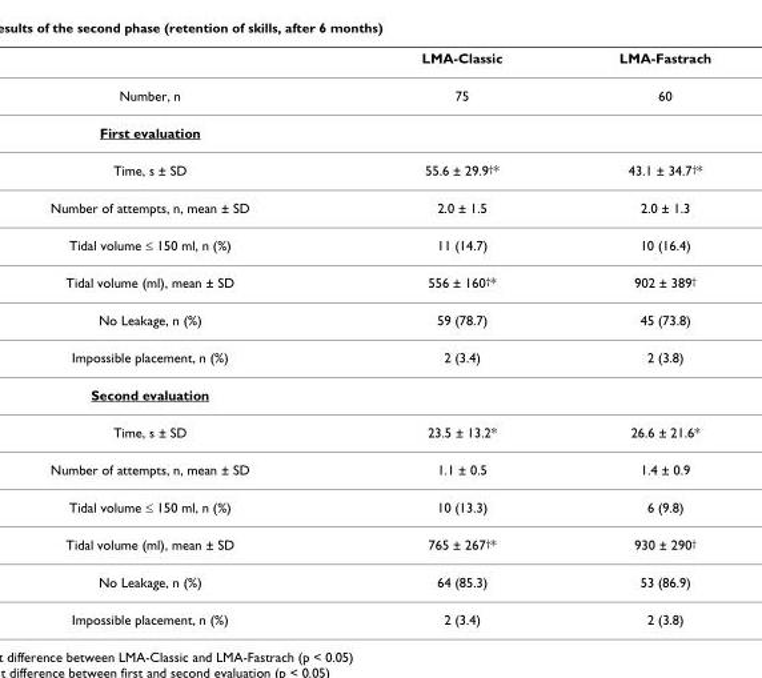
<table><thead><tr><td></td><td>LMA-Classic</td><td>LMA-Fastrach</td></tr></thead><tbody><tr><td>Number, n</td><td>75</td><td>60</td></tr><tr><td colspan="3">First evaluation</td></tr><tr><td>Time, s ± SD</td><td>55.6 ± 29.9<sup>†</sup>*</td><td>43.1 ± 34.7<sup>†</sup>*</td></tr><tr><td>Number of attempts, n, mean ± SD</td><td>2.0 ± 1.5</td><td>2.0 ± 1.3</td></tr><tr><td>Tidal volume ≤ 150 ml, n (%)</td><td>11 (14.7)</td><td>10 (16.4)</td></tr><tr><td>Tidal volume (ml), mean ± SD</td><td>556 ± 160<sup>†</sup>*</td><td>902 ± 389<sup>†</sup></td></tr><tr><td>No Leakage, n (%)</td><td>59 (78.7)</td><td>45 (73.8)</td></tr><tr><td>Impossible placement, n (%)</td><td>2 (3.4)</td><td>2 (3.8)</td></tr><tr><td colspan="3">Second evaluation</td></tr><tr><td>Time, s ± SD</td><td>23.5 ± 13.2*</td><td>26.6 ± 21.6*</td></tr><tr><td>Number of attempts, n, mean ± SD</td><td>1.1 ± 0.5</td><td>1.4 ± 0.9</td></tr><tr><td>Tidal volume ≤ 150 ml, n (%)</td><td>10 (13.3)</td><td>6 (9.8)</td></tr><tr><td>Tidal volume (ml), mean ± SD</td><td>765 ± 267<sup>†</sup>*</td><td>930 ± 290<sup>†</sup></td></tr><tr><td>No Leakage, n (%)</td><td>64 (85.3)</td><td>53 (86.9)</td></tr><tr><td>Impossible placement, n (%)</td><td>2 (3.4)</td><td>2 (3.8)</td></tr></tbody></table>